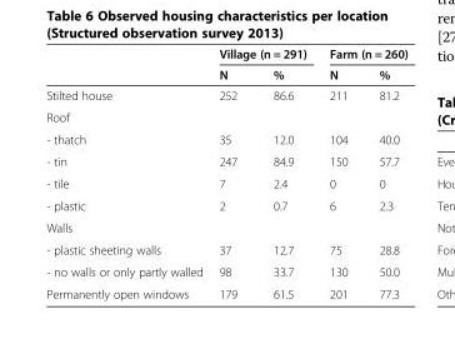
<table><thead><tr><td rowspan="2"></td><td colspan="2">Village (n = 291)</td><td colspan="2">Farm (n = 260)</td></tr><tr><td>N</td><td>%</td><td>N</td><td>%</td></tr></thead><tbody><tr><td>Stilted house</td><td>252</td><td>86.6</td><td>211</td><td>81.2</td></tr><tr><td colspan="5">Roof</td></tr><tr><td>- thatch</td><td>35</td><td>12.0</td><td>104</td><td>40.0</td></tr><tr><td>- tin</td><td>247</td><td>84.9</td><td>150</td><td>57.7</td></tr><tr><td>- tile</td><td>7</td><td>2.4</td><td>0</td><td>0</td></tr><tr><td>- plastic</td><td>2</td><td>0.7</td><td>6</td><td>2.3</td></tr><tr><td colspan="5">Walls</td></tr><tr><td>- plastic sheeting walls</td><td>37</td><td>12.7</td><td>75</td><td>28.8</td></tr><tr><td>- no walls or only partly walled</td><td>98</td><td>33.7</td><td>130</td><td>50.0</td></tr><tr><td>Permanently open windows</td><td>179</td><td>61.5</td><td>201</td><td>77.3</td></tr></tbody></table>